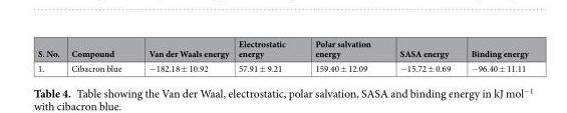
<table><thead><tr><td>S. No.</td><td>Compound</td><td>Van der Waals energy</td><td>Electrostatic energy</td><td>Polar salvation energy</td><td>SASA energy</td><td>Binding energy</td></tr></thead><tbody><tr><td>1.</td><td>Cibacron blue</td><td>−182.18 ± 10.92</td><td>57.91 ± 9.21</td><td>159.40 ± 12.09</td><td>−15.72 ± 0.69</td><td>−96.40 ± 11.11</td></tr></tbody></table>